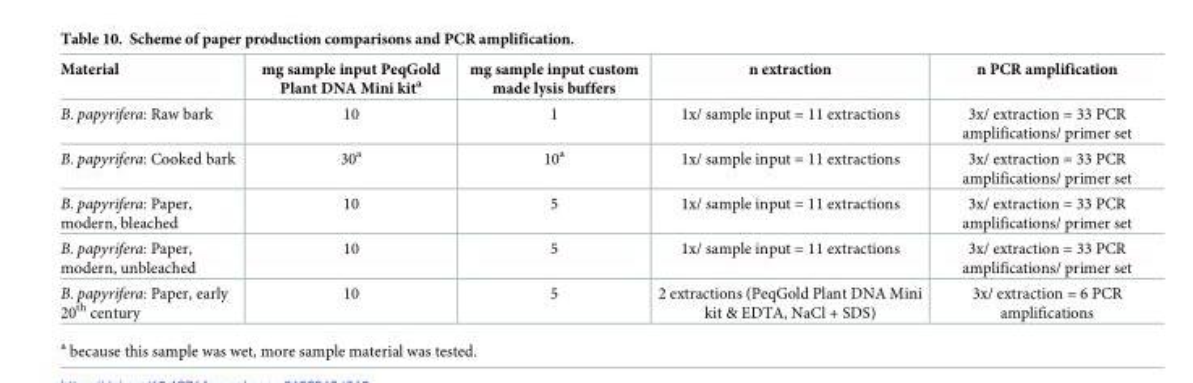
<table><thead><tr><td>Material</td><td>mg sample input PeqGold Plant DNA Mini kit<sup>a</sup></td><td>mg sample input custom made lysis buffers</td><td>n extraction</td><td>n PCR amplification</td></tr></thead><tbody><tr><td>B. papyrifera: Raw bark</td><td>10</td><td>1</td><td>1x/ sample input = 11 extractions</td><td>3x/ extraction = 33 PCR amplifications/ primer set</td></tr><tr><td>B. papyrifera: Cooked bark</td><td>30<sup>a</sup></td><td>10<sup>a</sup></td><td>1x/ sample input = 11 extractions</td><td>3x/ extraction = 33 PCR amplifications/ primer set</td></tr><tr><td>B. papyrifera: Paper, modern, bleached</td><td>10</td><td>5</td><td>1x/ sample input = 11 extractions</td><td>3x/ extraction = 33 PCR amplifications/ primer set</td></tr><tr><td>B. papyrifera: Paper, modern, unbleached</td><td>10</td><td>5</td><td>1x/ sample input = 11 extractions</td><td>3x/ extraction = 33 PCR amplifications/ primer set</td></tr><tr><td>B. papyrifera: Paper, early 20<sup>th</sup> century</td><td>10</td><td>5</td><td>2 extractions (PeqGold Plant DNA Mini kit &amp; EDTA, NaCl + SDS)</td><td>3x/ extraction = 6 PCR amplifications</td></tr></tbody></table>